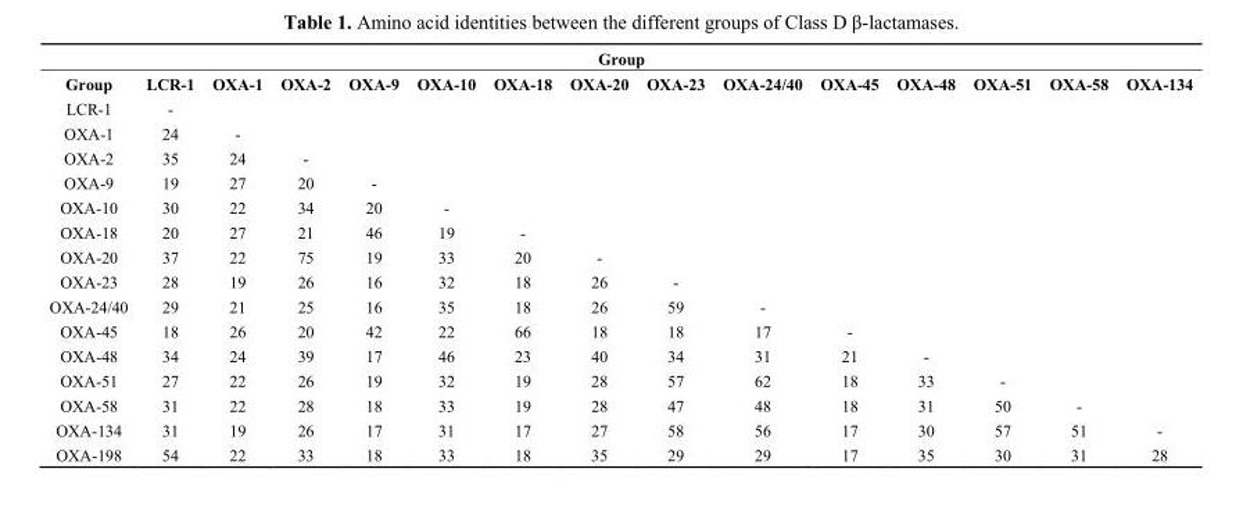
<table><thead><tr><td colspan="15">Group</td></tr><tr><td>Group</td><td>LCR-1</td><td>OXA-1</td><td>OXA-2</td><td>OXA-9</td><td>OXA-10</td><td>OXA-18</td><td>OXA-20</td><td>OXA-23</td><td>OXA-24/40</td><td>OXA-45</td><td>OXA-48</td><td>OXA-51</td><td>OXA-58</td><td>OXA-134</td></tr></thead><tbody><tr><td>LCR-1</td><td>-</td><td></td><td></td><td></td><td></td><td></td><td></td><td></td><td></td><td></td><td></td><td></td><td></td><td></td></tr><tr><td>OXA-1</td><td>24</td><td>-</td><td></td><td></td><td></td><td></td><td></td><td></td><td></td><td></td><td></td><td></td><td></td><td></td></tr><tr><td>OXA-2</td><td>35</td><td>24</td><td>-</td><td></td><td></td><td></td><td></td><td></td><td></td><td></td><td></td><td></td><td></td><td></td></tr><tr><td>OXA-9</td><td>19</td><td>27</td><td>20</td><td>-</td><td></td><td></td><td></td><td></td><td></td><td></td><td></td><td></td><td></td><td></td></tr><tr><td>OXA-10</td><td>30</td><td>22</td><td>34</td><td>20</td><td>-</td><td></td><td></td><td></td><td></td><td></td><td></td><td></td><td></td><td></td></tr><tr><td>OXA-18</td><td>20</td><td>27</td><td>21</td><td>46</td><td>19</td><td>-</td><td></td><td></td><td></td><td></td><td></td><td></td><td></td><td></td></tr><tr><td>OXA-20</td><td>37</td><td>22</td><td>75</td><td>19</td><td>33</td><td>20</td><td>-</td><td></td><td></td><td></td><td></td><td></td><td></td><td></td></tr><tr><td>OXA-23</td><td>28</td><td>19</td><td>26</td><td>16</td><td>32</td><td>18</td><td>26</td><td>-</td><td></td><td></td><td></td><td></td><td></td><td></td></tr><tr><td>OXA-24/40</td><td>29</td><td>21</td><td>25</td><td>16</td><td>35</td><td>18</td><td>26</td><td>59</td><td>-</td><td></td><td></td><td></td><td></td><td></td></tr><tr><td>OXA-45</td><td>18</td><td>26</td><td>20</td><td>42</td><td>22</td><td>66</td><td>18</td><td>18</td><td>17</td><td>-</td><td></td><td></td><td></td><td></td></tr><tr><td>OXA-48</td><td>34</td><td>24</td><td>39</td><td>17</td><td>46</td><td>23</td><td>40</td><td>34</td><td>31</td><td>21</td><td>-</td><td></td><td></td><td></td></tr><tr><td>OXA-51</td><td>27</td><td>22</td><td>26</td><td>19</td><td>32</td><td>19</td><td>28</td><td>57</td><td>62</td><td>18</td><td>33</td><td>-</td><td></td><td></td></tr><tr><td>OXA-58</td><td>31</td><td>22</td><td>28</td><td>18</td><td>33</td><td>19</td><td>28</td><td>47</td><td>48</td><td>18</td><td>31</td><td>50</td><td>-</td><td></td></tr><tr><td>OXA-134</td><td>31</td><td>19</td><td>26</td><td>17</td><td>31</td><td>17</td><td>27</td><td>58</td><td>56</td><td>17</td><td>30</td><td>57</td><td>51</td><td>-</td></tr><tr><td>OXA-198</td><td>54</td><td>22</td><td>33</td><td>18</td><td>33</td><td>18</td><td>35</td><td>29</td><td>29</td><td>17</td><td>35</td><td>30</td><td>31</td><td>28</td></tr></tbody></table>